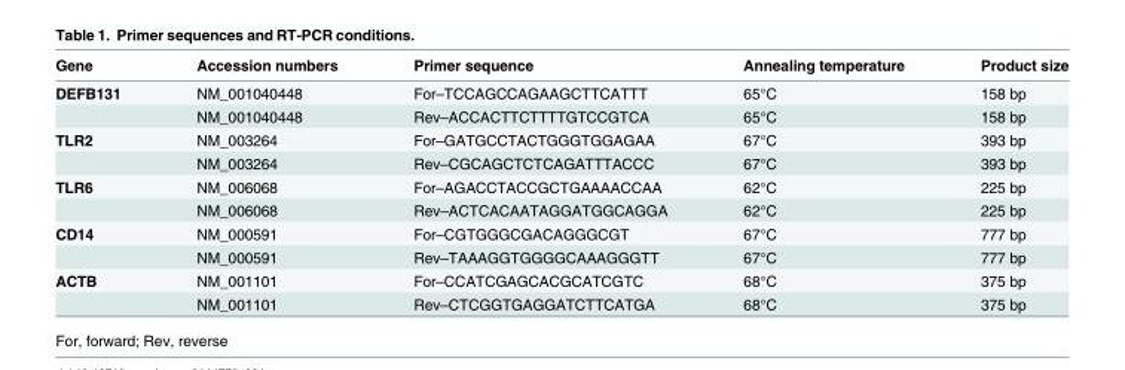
<table><thead><tr><td>Gene</td><td>Accession numbers</td><td>Primer sequence</td><td>Annealing temperature</td><td>Product size</td></tr></thead><tbody><tr><td rowspan="2">DEFB131</td><td>NM_001040448</td><td>For–TCCAGCCAGAAGCTTCATTT</td><td>65°C</td><td>158 bp</td></tr><tr><td>NM_001040448</td><td>Rev–ACCACTTCTTTTGTCCGTCA</td><td>65°C</td><td>158 bp</td></tr><tr><td rowspan="2">TLR2</td><td>NM_003264</td><td>For–GATGCCTACTGGGTGGAGAA</td><td>67°C</td><td>393 bp</td></tr><tr><td>NM_003264</td><td>Rev–CGCAGCTCTCAGATTTACCC</td><td>67°C</td><td>393 bp</td></tr><tr><td rowspan="2">TLR6</td><td>NM_006068</td><td>For–AGACCTACCGCTGAAAACCAA</td><td>62°C</td><td>225 bp</td></tr><tr><td>NM_006068</td><td>Rev–ACTCACAATAGGATGGCAGGA</td><td>62°C</td><td>225 bp</td></tr><tr><td rowspan="2">CD14</td><td>NM_000591</td><td>For–CGTGGGCGACAGGGCGT</td><td>67°C</td><td>777 bp</td></tr><tr><td>NM_000591</td><td>Rev–TAAAGGTGGGGCAAAGGGTT</td><td>67°C</td><td>777 bp</td></tr><tr><td rowspan="2">ACTB</td><td>NM_001101</td><td>For–CCATCGAGCACGCATCGTC</td><td>68°C</td><td>375 bp</td></tr><tr><td>NM_001101</td><td>Rev–CTCGGTGAGGATCTTCATGA</td><td>68°C</td><td>375 bp</td></tr></tbody></table>